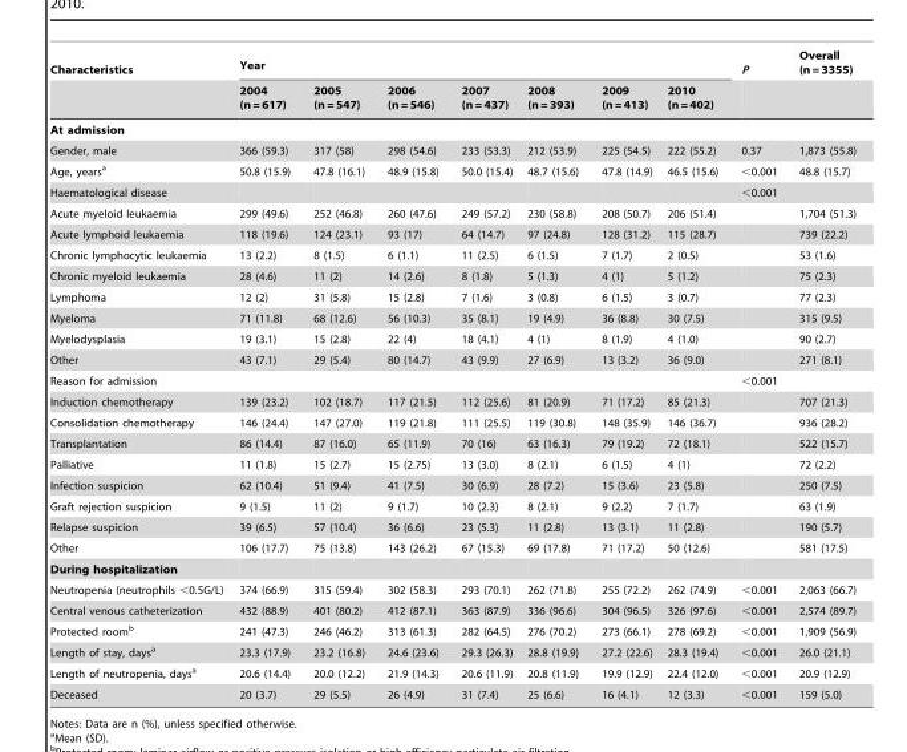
<table><thead><tr><td rowspan="2">Characteristics</td><td colspan="7">Year</td><td rowspan="2">P</td><td rowspan="2">Overall (n = 3355)</td></tr><tr><td>2004 (n = 617)</td><td>2005 (n = 547)</td><td>2006 (n = 546)</td><td>2007 (n = 437)</td><td>2008 (n = 393)</td><td>2009 (n = 413)</td><td>2010 (n = 402)</td></tr></thead><tbody><tr><td colspan="10">At admission</td></tr><tr><td>Gender, male</td><td>366 (59.3)</td><td>317 (58)</td><td>298 (54.6)</td><td>233 (53.3)</td><td>212 (53.9)</td><td>225 (54.5)</td><td>222 (55.2)</td><td>0.37</td><td>1,873 (55.8)</td></tr><tr><td>Age, years<sup>a</sup></td><td>50.8 (15.9)</td><td>47.8 (16.1)</td><td>48.9 (15.8)</td><td>50.0 (15.4)</td><td>48.7 (15.6)</td><td>47.8 (14.9)</td><td>46.5 (15.6)</td><td>&lt;0.001</td><td>48.8 (15.7)</td></tr><tr><td>Haematological disease</td><td></td><td></td><td></td><td></td><td></td><td></td><td></td><td>&lt;0.001</td><td></td></tr><tr><td>Acute myeloid leukaemia</td><td>299 (49.6)</td><td>252 (46.8)</td><td>260 (47.6)</td><td>249 (57.2)</td><td>230 (58.8)</td><td>208 (50.7)</td><td>206 (51.4)</td><td></td><td>1,704 (51.3)</td></tr><tr><td>Acute lymphoid leukaemia</td><td>118 (19.6)</td><td>124 (23.1)</td><td>93 (17)</td><td>64 (14.7)</td><td>97 (24.8)</td><td>128 (31.2)</td><td>115 (28.7)</td><td></td><td>739 (22.2)</td></tr><tr><td>Chronic lymphocytic leukaemia</td><td>13 (2.2)</td><td>8 (1.5)</td><td>6 (1.1)</td><td>11 (2.5)</td><td>6 (1.5)</td><td>7 (1.7)</td><td>2 (0.5)</td><td></td><td>53 (1.6)</td></tr><tr><td>Chronic myeloid leukaemia</td><td>28 (4.6)</td><td>11 (2)</td><td>14 (2.6)</td><td>8 (1.8)</td><td>5 (1.3)</td><td>4 (1)</td><td>5 (1.2)</td><td></td><td>75 (2.3)</td></tr><tr><td>Lymphoma</td><td>12 (2)</td><td>31 (5.8)</td><td>15 (2.8)</td><td>7 (1.6)</td><td>3 (0.8)</td><td>6 (1.5)</td><td>3 (0.7)</td><td></td><td>77 (2.3)</td></tr><tr><td>Myeloma</td><td>71 (11.8)</td><td>68 (12.6)</td><td>56 (10.3)</td><td>35 (8.1)</td><td>19 (4.9)</td><td>36 (8.8)</td><td>30 (7.5)</td><td></td><td>315 (9.5)</td></tr><tr><td>Myelodysplasia</td><td>19 (3.1)</td><td>15 (2.8)</td><td>22 (4)</td><td>18 (4.1)</td><td>4 (1)</td><td>8 (1.9)</td><td>4 (1.0)</td><td></td><td>90 (2.7)</td></tr><tr><td>Other</td><td>43 (7.1)</td><td>29 (5.4)</td><td>80 (14.7)</td><td>43 (9.9)</td><td>27 (6.9)</td><td>13 (3.2)</td><td>36 (9.0)</td><td></td><td>271 (8.1)</td></tr><tr><td>Reason for admission</td><td></td><td></td><td></td><td></td><td></td><td></td><td></td><td>&lt;0.001</td><td></td></tr><tr><td>Induction chemotherapy</td><td>139 (23.2)</td><td>102 (18.7)</td><td>117 (21.5)</td><td>112 (25.6)</td><td>81 (20.9)</td><td>71 (17.2)</td><td>85 (21.3)</td><td></td><td>707 (21.3)</td></tr><tr><td>Consolidation chemotherapy</td><td>146 (24.4)</td><td>147 (27.0)</td><td>119 (21.8)</td><td>111 (25.5)</td><td>119 (30.8)</td><td>148 (35.9)</td><td>146 (36.7)</td><td></td><td>936 (28.2)</td></tr><tr><td>Transplantation</td><td>86 (14.4)</td><td>87 (16.0)</td><td>65 (11.9)</td><td>70 (16)</td><td>63 (16.3)</td><td>79 (19.2)</td><td>72 (18.1)</td><td></td><td>522 (15.7)</td></tr><tr><td>Palliative</td><td>11 (1.8)</td><td>15 (2.7)</td><td>15 (2.75)</td><td>13 (3.0)</td><td>8 (2.1)</td><td>6 (1.5)</td><td>4 (1)</td><td></td><td>72 (2.2)</td></tr><tr><td>Infection suspicion</td><td>62 (10.4)</td><td>51 (9.4)</td><td>41 (7.5)</td><td>30 (6.9)</td><td>28 (7.2)</td><td>15 (3.6)</td><td>23 (5.8)</td><td></td><td>250 (7.5)</td></tr><tr><td>Graft rejection suspicion</td><td>9 (1.5)</td><td>11 (2)</td><td>9 (1.7)</td><td>10 (2.3)</td><td>8 (2.1)</td><td>9 (2.2)</td><td>7 (1.7)</td><td></td><td>63 (1.9)</td></tr><tr><td>Relapse suspicion</td><td>39 (6.5)</td><td>57 (10.4)</td><td>36 (6.6)</td><td>23 (5.3)</td><td>11 (2.8)</td><td>13 (3.1)</td><td>11 (2.8)</td><td></td><td>190 (5.7)</td></tr><tr><td>Other</td><td>106 (17.7)</td><td>75 (13.8)</td><td>143 (26.2)</td><td>67 (15.3)</td><td>69 (17.8)</td><td>71 (17.2)</td><td>50 (12.6)</td><td></td><td>581 (17.5)</td></tr><tr><td colspan="10">During hospitalization</td></tr><tr><td>Neutropenia (neutrophils &lt;0.5G/L)</td><td>374 (66.9)</td><td>315 (59.4)</td><td>302 (58.3)</td><td>293 (70.1)</td><td>262 (71.8)</td><td>255 (72.2)</td><td>262 (74.9)</td><td>&lt;0.001</td><td>2,063 (66.7)</td></tr><tr><td>Central venous catheterization</td><td>432 (88.9)</td><td>401 (80.2)</td><td>412 (87.1)</td><td>363 (87.9)</td><td>336 (96.6)</td><td>304 (96.5)</td><td>326 (97.6)</td><td>&lt;0.001</td><td>2,574 (89.7)</td></tr><tr><td>Protected room<sup>b</sup></td><td>241 (47.3)</td><td>246 (46.2)</td><td>313 (61.3)</td><td>282 (64.5)</td><td>276 (70.2)</td><td>273 (66.1)</td><td>278 (69.2)</td><td>&lt;0.001</td><td>1,909 (56.9)</td></tr><tr><td>Length of stay, days<sup>a</sup></td><td>23.3 (17.9)</td><td>23.2 (16.8)</td><td>24.6 (23.6)</td><td>29.3 (26.3)</td><td>28.8 (19.9)</td><td>27.2 (22.6)</td><td>28.3 (19.4)</td><td>&lt;0.001</td><td>26.0 (21.1)</td></tr><tr><td>Length of neutropenia, days<sup>a</sup></td><td>20.6 (14.4)</td><td>20.0 (12.2)</td><td>21.9 (14.3)</td><td>20.6 (11.9)</td><td>20.8 (11.9)</td><td>19.9 (12.9)</td><td>22.4 (12.0)</td><td>&lt;0.001</td><td>20.9 (12.9)</td></tr><tr><td>Deceased</td><td>20 (3.7)</td><td>29 (5.5)</td><td>26 (4.9)</td><td>31 (7.4)</td><td>25 (6.6)</td><td>16 (4.1)</td><td>12 (3.3)</td><td>&lt;0.001</td><td>159 (5.0)</td></tr></tbody></table>